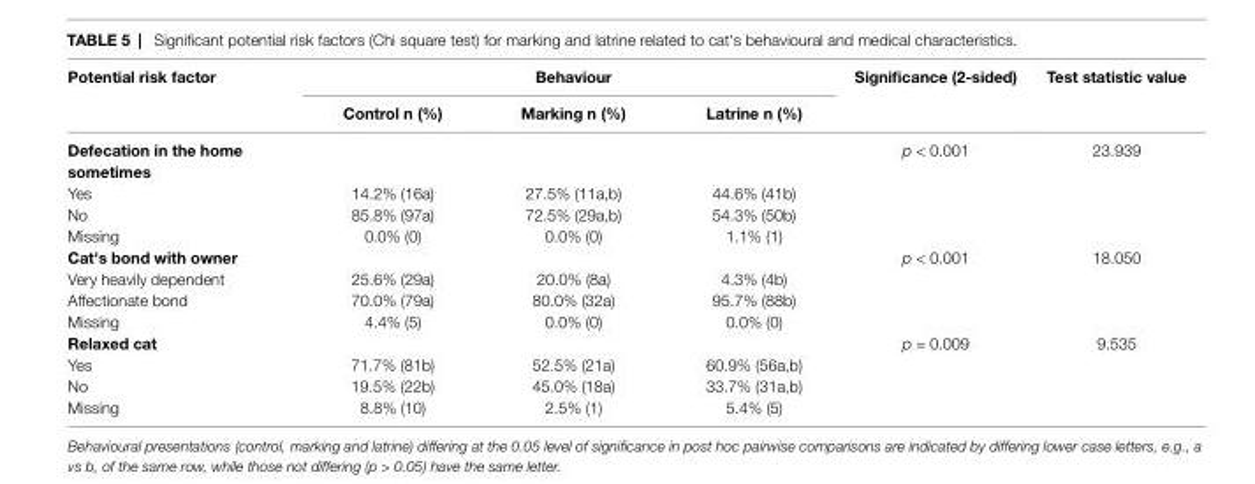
<table><thead><tr><td rowspan="2">Potential risk factor</td><td colspan="3">Behaviour</td><td rowspan="2">significance (2-sided)</td><td rowspan="2">Test statistic value</td></tr><tr><td>control n (%)</td><td>Marking n (%)</td><td>latrine n (%)</td></tr></thead><tbody><tr><td>Defecation in the home sometimes</td><td></td><td></td><td></td><td>p &lt; 0.001</td><td>23.939</td></tr><tr><td>Yes</td><td>14.2% (16a)</td><td>27.5% (11a,b)</td><td>44.6% (41b)</td><td></td><td></td></tr><tr><td>No</td><td>85.8% (97a)</td><td>72.5% (29a,b)</td><td>54.3% (50b)</td><td></td><td></td></tr><tr><td>Missing</td><td>0.0% (0)</td><td>0.0% (0)</td><td>1.1% (1)</td><td></td><td></td></tr><tr><td>cat&#x27;s bond with owner</td><td></td><td></td><td></td><td>p &lt; 0.001</td><td>18.050</td></tr><tr><td>Very heavily dependent</td><td>25.6% (29a)</td><td>20.0% (8a)</td><td>4.3% (4b)</td><td></td><td></td></tr><tr><td>Affectionate bond</td><td>70.0% (79a)</td><td>80.0% (32a)</td><td>95.7% (88b)</td><td></td><td></td></tr><tr><td>Missing</td><td>4.4% (5)</td><td>0.0% (0)</td><td>0.0% (0)</td><td></td><td></td></tr><tr><td>relaxed cat</td><td></td><td></td><td></td><td>p = 0.009</td><td>9.535</td></tr><tr><td>Yes</td><td>71.7% (81b)</td><td>52.5% (21a)</td><td>60.9% (56a,b)</td><td></td><td></td></tr><tr><td>No</td><td>19.5% (22b)</td><td>45.0% (18a)</td><td>33.7% (31a,b)</td><td></td><td></td></tr><tr><td>Missing</td><td>8.8% (10)</td><td>2.5% (1)</td><td>5.4% (5)</td><td></td><td></td></tr></tbody></table>